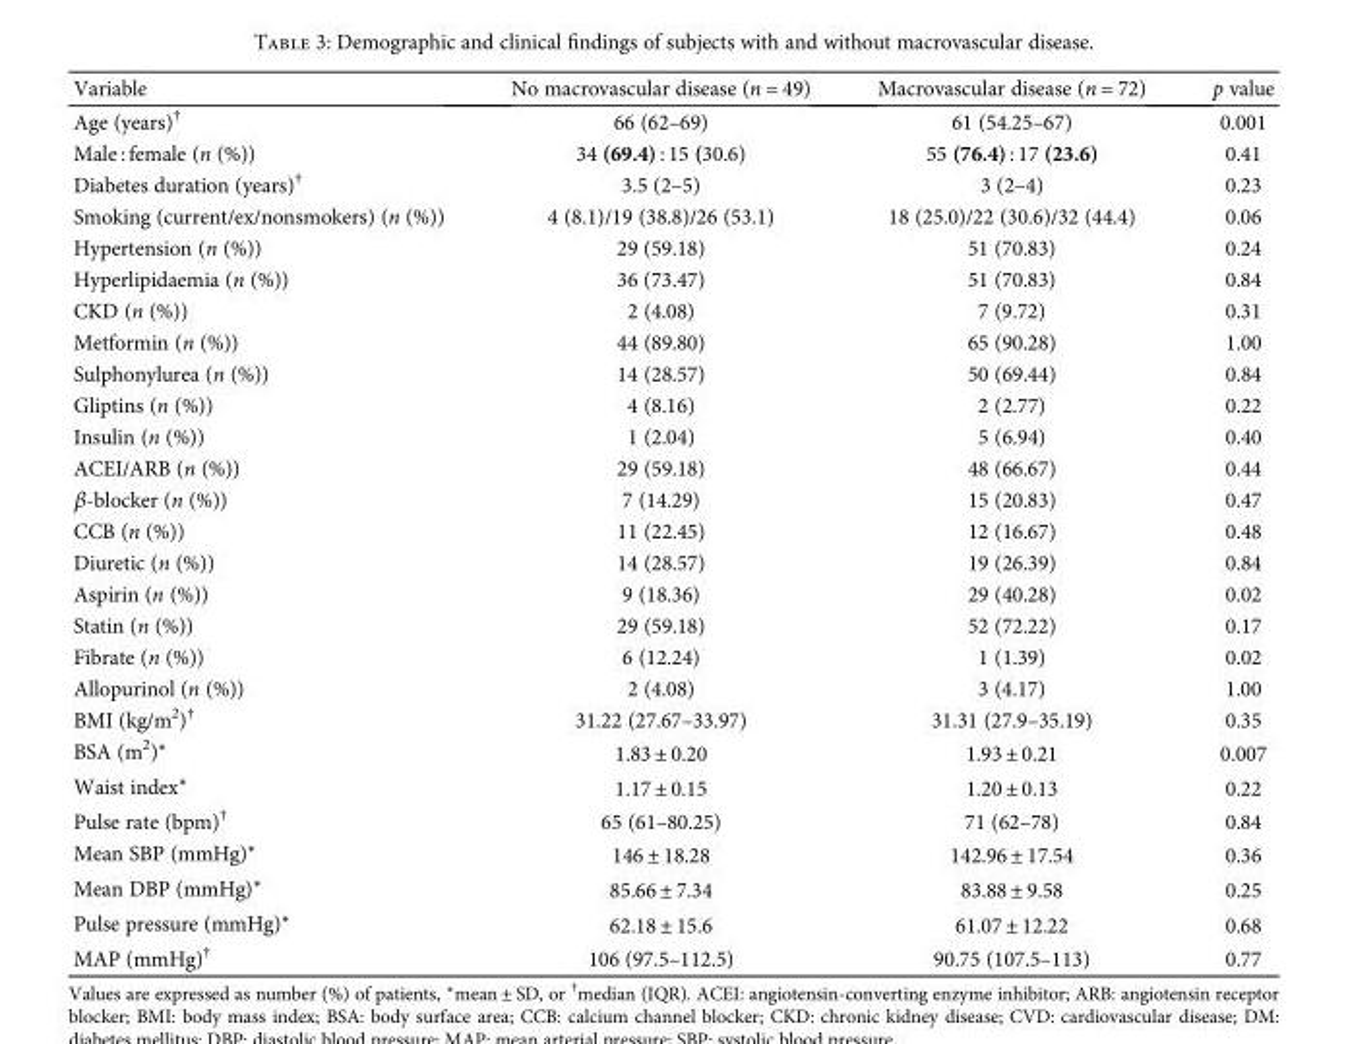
<table><thead><tr><td>Variable</td><td>No macrovascular disease (n = 49)</td><td>Macrovascular disease (n = 72)</td><td>p value</td></tr></thead><tbody><tr><td>Age (years)<sup>†</sup></td><td>66 (62–69)</td><td>61 (54.25–67)</td><td>0.001</td></tr><tr><td>Male : female (n (%))</td><td>34 (69.4) : 15 (30.6)</td><td>55 (76.4) : 17 (23.6)</td><td>0.41</td></tr><tr><td>Diabetes duration (years)<sup>†</sup></td><td>3.5 (2–5)</td><td>3 (2–4)</td><td>0.23</td></tr><tr><td>Smoking (current/ex/nonsmokers) (n (%))</td><td>4 (8.1)/19 (38.8)/26 (53.1)</td><td>18 (25.0)/22 (30.6)/32 (44.4)</td><td>0.06</td></tr><tr><td>Hypertension (n (%))</td><td>29 (59.18)</td><td>51 (70.83)</td><td>0.24</td></tr><tr><td>Hyperlipidaemia (n (%))</td><td>36 (73.47)</td><td>51 (70.83)</td><td>0.84</td></tr><tr><td>CKD (n (%))</td><td>2 (4.08)</td><td>7 (9.72)</td><td>0.31</td></tr><tr><td>Metformin (n (%))</td><td>44 (89.80)</td><td>65 (90.28)</td><td>1.00</td></tr><tr><td>Sulphonylurea (n (%))</td><td>14 (28.57)</td><td>50 (69.44)</td><td>0.84</td></tr><tr><td>Gliptins (n (%))</td><td>4 (8.16)</td><td>2 (2.77)</td><td>0.22</td></tr><tr><td>Insulin (n (%))</td><td>1 (2.04)</td><td>5 (6.94)</td><td>0.40</td></tr><tr><td>ACEI/ARB (n (%))</td><td>29 (59.18)</td><td>48 (66.67)</td><td>0.44</td></tr><tr><td>β-blocker (n (%))</td><td>7 (14.29)</td><td>15 (20.83)</td><td>0.47</td></tr><tr><td>CCB (n (%))</td><td>11 (22.45)</td><td>12 (16.67)</td><td>0.48</td></tr><tr><td>Diuretic (n (%))</td><td>14 (28.57)</td><td>19 (26.39)</td><td>0.84</td></tr><tr><td>Aspirin (n (%))</td><td>9 (18.36)</td><td>29 (40.28)</td><td>0.02</td></tr><tr><td>Statin (n (%))</td><td>29 (59.18)</td><td>52 (72.22)</td><td>0.17</td></tr><tr><td>Fibrate (n (%))</td><td>6 (12.24)</td><td>1 (1.39)</td><td>0.02</td></tr><tr><td>Allopurinol (n (%))</td><td>2 (4.08)</td><td>3 (4.17)</td><td>1.00</td></tr><tr><td>BMI (kg/m<sup>2</sup>)<sup>†</sup></td><td>31.22 (27.67–33.97)</td><td>31.31 (27.9–35.19)</td><td>0.35</td></tr><tr><td>BSA (m<sup>2</sup>)∗</td><td>1.83 ± 0.20</td><td>1.93 ± 0.21</td><td>0.007</td></tr><tr><td>Waist index∗</td><td>1.17 ± 0.15</td><td>1.20 ± 0.13</td><td>0.22</td></tr><tr><td>Pulse rate (bpm)<sup>†</sup></td><td>65 (61–80.25)</td><td>71 (62–78)</td><td>0.84</td></tr><tr><td>Mean SBP (mmHg)∗</td><td>146 ± 18.28</td><td>142.96 ± 17.54</td><td>0.36</td></tr><tr><td>Mean DBP (mmHg)∗</td><td>85.66 ± 7.34</td><td>83.88 ± 9.58</td><td>0.25</td></tr><tr><td>Pulse pressure (mmHg)∗</td><td>62.18 ± 15.6</td><td>61.07 ± 12.22</td><td>0.68</td></tr><tr><td>MAP (mmHg)<sup>†</sup></td><td>106 (97.5–112.5)</td><td>90.75 (107.5–113)</td><td>0.77</td></tr></tbody></table>